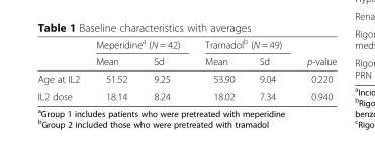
<table><thead><tr><td rowspan="2"></td><td colspan="2">Meperidine<sup>a</sup> (N = 42)</td><td colspan="2">Tramadol<sup>b</sup> (N = 49)</td><td rowspan="2">p-value</td></tr><tr><td>Mean</td><td>Sd</td><td>Mean</td><td>Sd</td></tr></thead><tbody><tr><td>Age at IL2</td><td>51.52</td><td>9.25</td><td>53.90</td><td>9.04</td><td>0.220</td></tr><tr><td>IL2 dose</td><td>18.14</td><td>8.24</td><td>18.02</td><td>7.34</td><td>0.940</td></tr></tbody></table>